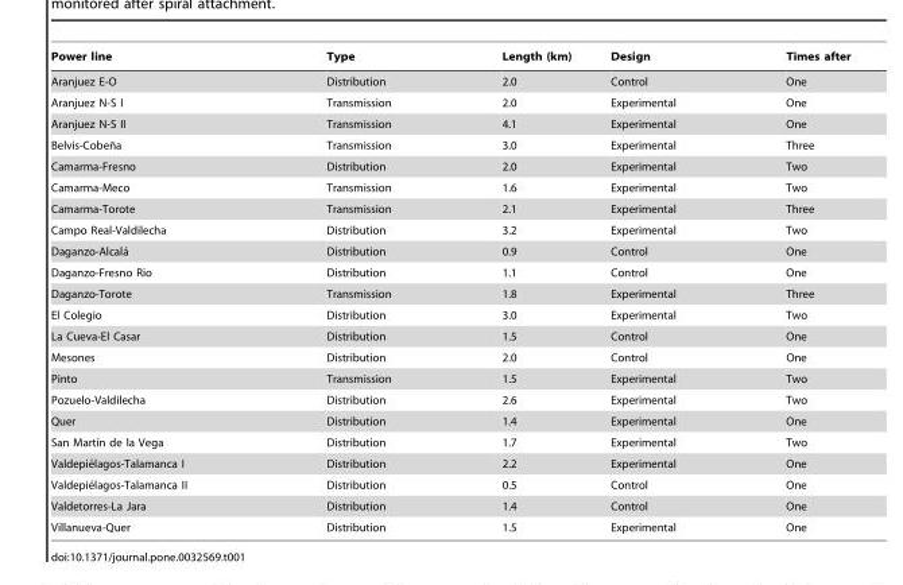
<table><thead><tr><td>Power line</td><td>Type</td><td>Length (km)</td><td>Design</td><td>Times after</td></tr></thead><tbody><tr><td>Aranjuez E-O</td><td>Distribution</td><td>2.0</td><td>Control</td><td>One</td></tr><tr><td>Aranjuez N-S I</td><td>Transmission</td><td>2.0</td><td>Experimental</td><td>One</td></tr><tr><td>Aranjuez N-S II</td><td>Transmission</td><td>4.1</td><td>Experimental</td><td>One</td></tr><tr><td>Belvis-Coben˜a</td><td>Transmission</td><td>3.0</td><td>Experimental</td><td>Three</td></tr><tr><td>Camarma-Fresno</td><td>Distribution</td><td>2.0</td><td>Experimental</td><td>Two</td></tr><tr><td>Camarma-Meco</td><td>Transmission</td><td>1.6</td><td>Experimental</td><td>Two</td></tr><tr><td>Camarma-Torote</td><td>Transmission</td><td>2.1</td><td>Experimental</td><td>Three</td></tr><tr><td>Campo Real-Valdilecha</td><td>Distribution</td><td>3.2</td><td>Experimental</td><td>Two</td></tr><tr><td>Daganzo-Alcala´</td><td>Distribution</td><td>0.9</td><td>Control</td><td>One</td></tr><tr><td>Daganzo-Fresno Rio</td><td>Distribution</td><td>1.1</td><td>Control</td><td>One</td></tr><tr><td>Daganzo-Torote</td><td>Transmission</td><td>1.8</td><td>Experimental</td><td>Three</td></tr><tr><td>El Colegio</td><td>Distribution</td><td>3.0</td><td>Experimental</td><td>Two</td></tr><tr><td>La Cueva-El Casar</td><td>Distribution</td><td>1.5</td><td>Control</td><td>One</td></tr><tr><td>Mesones</td><td>Distribution</td><td>2.0</td><td>Control</td><td>One</td></tr><tr><td>Pinto</td><td>Transmission</td><td>1.5</td><td>Experimental</td><td>Two</td></tr><tr><td>Pozuelo-Valdilecha</td><td>Distribution</td><td>2.6</td><td>Experimental</td><td>Two</td></tr><tr><td>Quer</td><td>Distribution</td><td>1.4</td><td>Experimental</td><td>One</td></tr><tr><td>San Martı´n de la Vega</td><td>Distribution</td><td>1.7</td><td>Experimental</td><td>Two</td></tr><tr><td>Valdepie´lagos-Talamanca I</td><td>Distribution</td><td>2.2</td><td>Experimental</td><td>One</td></tr><tr><td>Valdepie´lagos-Talamanca II</td><td>Distribution</td><td>0.5</td><td>Control</td><td>One</td></tr><tr><td>Valdetorres-La Jara</td><td>Distribution</td><td>1.4</td><td>Control</td><td>One</td></tr><tr><td>Villanueva-Quer</td><td>Distribution</td><td>1.5</td><td>Experimental</td><td>One</td></tr></tbody></table>